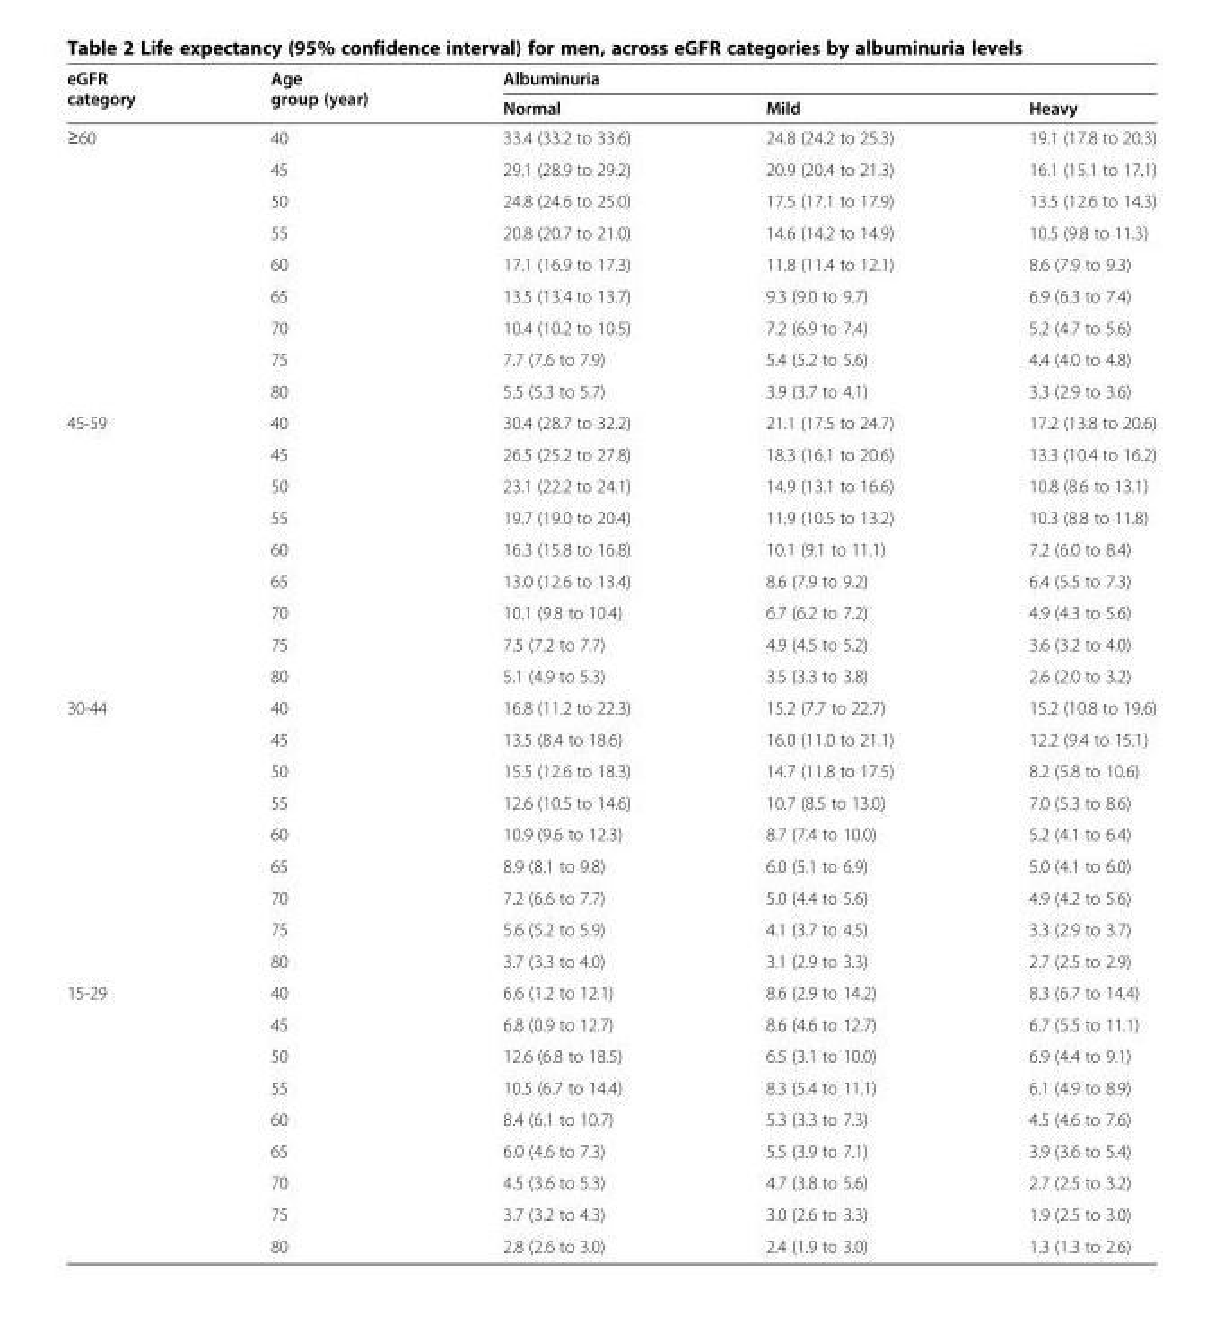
<table><thead><tr><td rowspan="2">eGFR category</td><td rowspan="2">Age group (year)</td><td colspan="3">Albuminuria</td></tr><tr><td>Normal</td><td>Mild</td><td>Heavy</td></tr></thead><tbody><tr><td rowspan="9">≥60</td><td>40</td><td>33.4 (33.2 to 33.6)</td><td>24.8 (24.2 to 25.3)</td><td>19.1 (17.8 to 20.3)</td></tr><tr><td>45</td><td>29.1 (28.9 to 29.2)</td><td>20.9 (20.4 to 21.3)</td><td>16.1 (15.1 to 17.1)</td></tr><tr><td>50</td><td>24.8 (24.6 to 25.0)</td><td>17.5 (17.1 to 17.9)</td><td>13.5 (12.6 to 14.3)</td></tr><tr><td>55</td><td>20.8 (20.7 to 21.0)</td><td>14.6 (14.2 to 14.9)</td><td>10.5 (9.8 to 11.3)</td></tr><tr><td>60</td><td>17.1 (16.9 to 17.3)</td><td>11.8 (11.4 to 12.1)</td><td>8.6 (7.9 to 9.3)</td></tr><tr><td>65</td><td>13.5 (13.4 to 13.7)</td><td>9.3 (9.0 to 9.7)</td><td>6.9 (6.3 to 7.4)</td></tr><tr><td>70</td><td>10.4 (10.2 to 10.5)</td><td>7.2 (6.9 to 7.4)</td><td>5.2 (4.7 to 5.6)</td></tr><tr><td>75</td><td>7.7 (7.6 to 7.9)</td><td>5.4 (5.2 to 5.6)</td><td>4.4 (4.0 to 4.8)</td></tr><tr><td>80</td><td>5.5 (5.3 to 5.7)</td><td>3.9 (3.7 to 4.1)</td><td>3.3 (2.9 to 3.6)</td></tr><tr><td rowspan="9">45-59</td><td>40</td><td>30.4 (28.7 to 32.2)</td><td>21.1 (17.5 to 24.7)</td><td>17.2 (13.8 to 20.6)</td></tr><tr><td>45</td><td>26.5 (25.2 to 27.8)</td><td>18.3 (16.1 to 20.6)</td><td>13.3 (10.4 to 16.2)</td></tr><tr><td>50</td><td>23.1 (22.2 to 24.1)</td><td>14.9 (13.1 to 16.6)</td><td>10.8 (8.6 to 13.1)</td></tr><tr><td>55</td><td>19.7 (19.0 to 20.4)</td><td>11.9 (10.5 to 13.2)</td><td>10.3 (8.8 to 11.8)</td></tr><tr><td>60</td><td>16.3 (15.8 to 16.8)</td><td>10.1 (9.1 to 11.1)</td><td>7.2 (6.0 to 8.4)</td></tr><tr><td>65</td><td>13.0 (12.6 to 13.4)</td><td>8.6 (7.9 to 9.2)</td><td>6.4 (5.5 to 7.3)</td></tr><tr><td>70</td><td>10.1 (9.8 to 10.4)</td><td>6.7 (6.2 to 7.2)</td><td>4.9 (4.3 to 5.6)</td></tr><tr><td>75</td><td>7.5 (7.2 to 7.7)</td><td>4.9 (4.5 to 5.2)</td><td>3.6 (3.2 to 4.0)</td></tr><tr><td>80</td><td>5.1 (4.9 to 5.3)</td><td>3.5 (3.3 to 3.8)</td><td>2.6 (2.0 to 3.2)</td></tr><tr><td rowspan="9">30-44</td><td>40</td><td>16.8 (11.2 to 22.3)</td><td>15.2 (7.7 to 22.7)</td><td>15.2 (10.8 to 19.6)</td></tr><tr><td>45</td><td>13.5 (8.4 to 18.6)</td><td>16.0 (11.0 to 21.1)</td><td>12.2 (9.4 to 15.1)</td></tr><tr><td>50</td><td>15.5 (12.6 to 18.3)</td><td>14.7 (11.8 to 17.5)</td><td>8.2 (5.8 to 10.6)</td></tr><tr><td>55</td><td>12.6 (10.5 to 14.6)</td><td>10.7 (8.5 to 13.0)</td><td>7.0 (5.3 to 8.6)</td></tr><tr><td>60</td><td>10.9 (9.6 to 12.3)</td><td>8.7 (7.4 to 10.0)</td><td>5.2 (4.1 to 6.4)</td></tr><tr><td>65</td><td>8.9 (8.1 to 9.8)</td><td>6.0 (5.1 to 6.9)</td><td>5.0 (4.1 to 6.0)</td></tr><tr><td>70</td><td>7.2 (6.6 to 7.7)</td><td>5.0 (4.4 to 5.6)</td><td>4.9 (4.2 to 5.6)</td></tr><tr><td>75</td><td>5.6 (5.2 to 5.9)</td><td>4.1 (3.7 to 4.5)</td><td>3.3 (2.9 to 3.7)</td></tr><tr><td>80</td><td>3.7 (3.3 to 4.0)</td><td>3.1 (2.9 to 3.3)</td><td>2.7 (2.5 to 2.9)</td></tr><tr><td rowspan="9">15-29</td><td>40</td><td>6.6 (1.2 to 12.1)</td><td>8.6 (2.9 to 14.2)</td><td>8.3 (6.7 to 14.4)</td></tr><tr><td>45</td><td>6.8 (0.9 to 12.7)</td><td>8.6 (4.6 to 12.7)</td><td>6.7 (5.5 to 11.1)</td></tr><tr><td>50</td><td>12.6 (6.8 to 18.5)</td><td>6.5 (3.1 to 10.0)</td><td>6.9 (4.4 to 9.1)</td></tr><tr><td>55</td><td>10.5 (6.7 to 14.4)</td><td>8.3 (5.4 to 11.1)</td><td>6.1 (4.9 to 8.9)</td></tr><tr><td>60</td><td>8.4 (6.1 to 10.7)</td><td>5.3 (3.3 to 7.3)</td><td>4.5 (4.6 to 7.6)</td></tr><tr><td>65</td><td>6.0 (4.6 to 7.3)</td><td>5.5 (3.9 to 7.1)</td><td>3.9 (3.6 to 5.4)</td></tr><tr><td>70</td><td>4.5 (3.6 to 5.3)</td><td>4.7 (3.8 to 5.6)</td><td>2.7 (2.5 to 3.2)</td></tr><tr><td>75</td><td>3.7 (3.2 to 4.3)</td><td>3.0 (2.6 to 3.3)</td><td>1.9 (2.5 to 3.0)</td></tr><tr><td>80</td><td>2.8 (2.6 to 3.0)</td><td>2.4 (1.9 to 3.0)</td><td>1.3 (1.3 to 2.6)</td></tr></tbody></table>